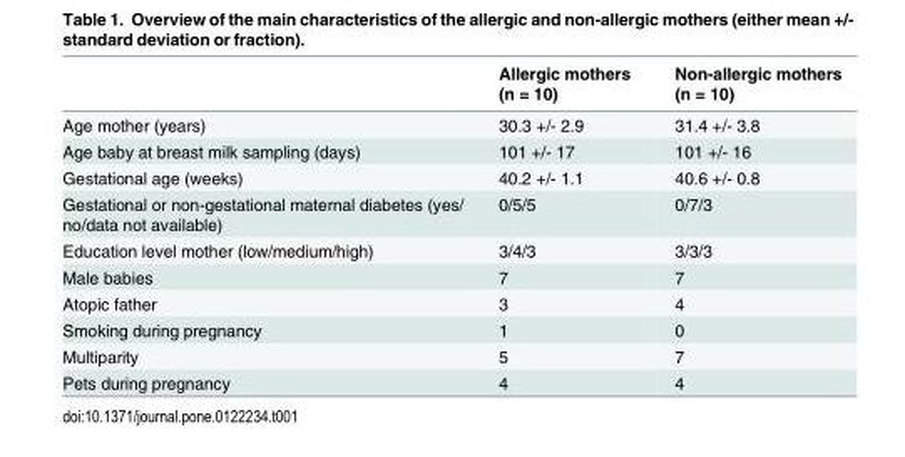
<table><thead><tr><td></td><td>Allergic mothers (n = 10)</td><td>Non-allergic mothers (n = 10)</td></tr></thead><tbody><tr><td>Age mother (years)</td><td>30.3 +/- 2.9</td><td>31.4 +/- 3.8</td></tr><tr><td>Age baby at breast milk sampling (days)</td><td>101 +/- 17</td><td>101 +/- 16</td></tr><tr><td>Gestational age (weeks)</td><td>40.2 +/- 1.1</td><td>40.6 +/- 0.8</td></tr><tr><td>Gestational or non-gestational maternal diabetes (yes/ no/data not available)</td><td>0/5/5</td><td>0/7/3</td></tr><tr><td>Education level mother (low/medium/high)</td><td>3/4/3</td><td>3/3/3</td></tr><tr><td>Male babies</td><td>7</td><td>7</td></tr><tr><td>Atopic father</td><td>3</td><td>4</td></tr><tr><td>Smoking during pregnancy</td><td>1</td><td>0</td></tr><tr><td>Multiparity</td><td>5</td><td>7</td></tr><tr><td>Pets during pregnancy</td><td>4</td><td>4</td></tr></tbody></table>